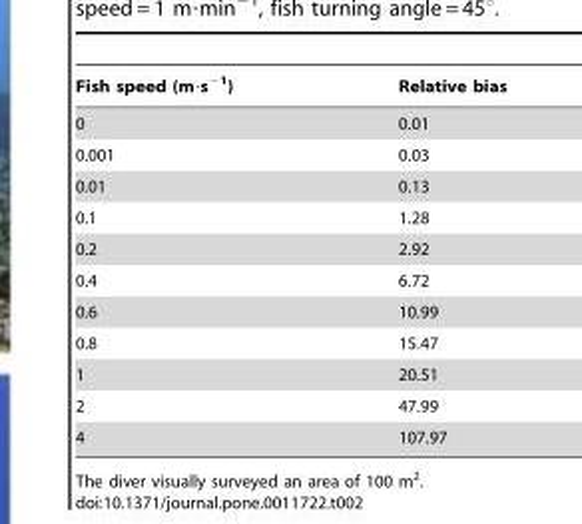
<table><thead><tr><td>Fish speed (m·s<sup>−1</sup>)</td><td>Relative bias</td></tr></thead><tbody><tr><td>0</td><td>0.01</td></tr><tr><td>0.001</td><td>0.03</td></tr><tr><td>0.01</td><td>0.13</td></tr><tr><td>0.1</td><td>1.28</td></tr><tr><td>0.2</td><td>2.92</td></tr><tr><td>0.4</td><td>6.72</td></tr><tr><td>0.6</td><td>10.99</td></tr><tr><td>0.8</td><td>15.47</td></tr><tr><td>1</td><td>20.51</td></tr><tr><td>2</td><td>47.99</td></tr><tr><td>4</td><td>107.97</td></tr></tbody></table>